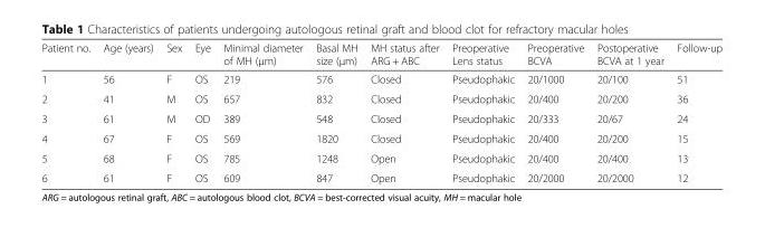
<table><thead><tr><td>Patient no.</td><td>Age (years)</td><td>Sex</td><td>Eye</td><td>Minimal diameter of MH (μm)</td><td>Basal MH size (μm)</td><td>MH status after ARG + ABC</td><td>Preoperative Lens status</td><td>Preoperative BCVA</td><td>Postoperative BCVA at 1 year</td><td>Follow-up</td></tr></thead><tbody><tr><td>1</td><td>56</td><td>F</td><td>OS</td><td>219</td><td>576</td><td>Closed</td><td>Pseudophakic</td><td>20/1000</td><td>20/100</td><td>51</td></tr><tr><td>2</td><td>41</td><td>M</td><td>OS</td><td>657</td><td>832</td><td>Closed</td><td>Pseudophakic</td><td>20/400</td><td>20/200</td><td>36</td></tr><tr><td>3</td><td>61</td><td>M</td><td>OD</td><td>389</td><td>548</td><td>Closed</td><td>Pseudophakic</td><td>20/333</td><td>20/67</td><td>24</td></tr><tr><td>4</td><td>67</td><td>F</td><td>OS</td><td>569</td><td>1820</td><td>Closed</td><td>Pseudophakic</td><td>20/400</td><td>20/200</td><td>15</td></tr><tr><td>5</td><td>68</td><td>F</td><td>OS</td><td>785</td><td>1248</td><td>Open</td><td>Pseudophakic</td><td>20/400</td><td>20/400</td><td>13</td></tr><tr><td>6</td><td>61</td><td>F</td><td>OS</td><td>609</td><td>847</td><td>Open</td><td>Pseudophakic</td><td>20/2000</td><td>20/2000</td><td>12</td></tr></tbody></table>